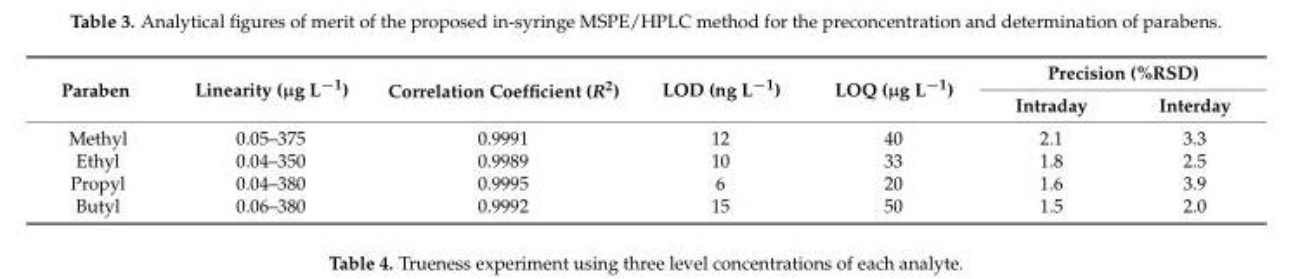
<table><thead><tr><td rowspan="2">Paraben</td><td rowspan="2">Linearity (µg L<sup>−1</sup>)</td><td rowspan="2">Correlation Coefficient (R<sup>2</sup>)</td><td rowspan="2">LOD (ng L<sup>−1</sup>)</td><td rowspan="2">LOQ (µg L<sup>−1</sup>)</td><td colspan="2">Precision (%RSD)</td></tr><tr><td>Intraday</td><td>Interday</td></tr></thead><tbody><tr><td>Methyl</td><td>0.05–375</td><td>0.9991</td><td>12</td><td>40</td><td>2.1</td><td>3.3</td></tr><tr><td>Ethyl</td><td>0.04–350</td><td>0.9989</td><td>10</td><td>33</td><td>1.8</td><td>2.5</td></tr><tr><td>Propyl</td><td>0.04–380</td><td>0.9995</td><td>6</td><td>20</td><td>1.6</td><td>3.9</td></tr><tr><td>Butyl</td><td>0.06–380</td><td>0.9992</td><td>15</td><td>50</td><td>1.5</td><td>2.0</td></tr></tbody></table>